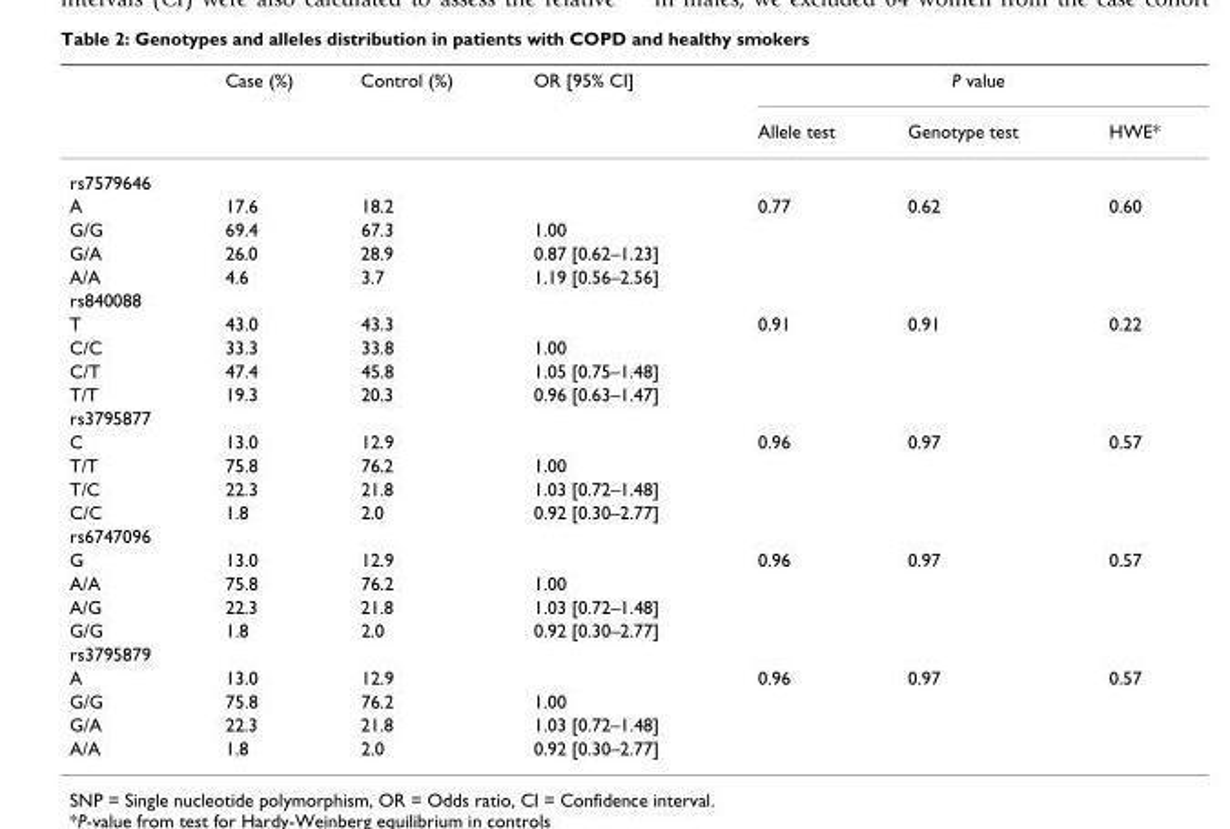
<table><thead><tr><td rowspan="2"></td><td rowspan="2">Case (%)</td><td rowspan="2">Control (%)</td><td rowspan="2">OR [95% CI]</td><td colspan="3">P value</td></tr><tr><td>Allele test</td><td>Genotype test</td><td>HWE*</td></tr></thead><tbody><tr><td colspan="7">rs7579646</td></tr><tr><td>A</td><td>17.6</td><td>18.2</td><td></td><td>0.77</td><td>0.62</td><td>0.60</td></tr><tr><td>G/G</td><td>69.4</td><td>67.3</td><td>1.00</td><td></td><td></td><td></td></tr><tr><td>G/A</td><td>26.0</td><td>28.9</td><td>0.87 [0.62–1.23]</td><td></td><td></td><td></td></tr><tr><td>A/A</td><td>4.6</td><td>3.7</td><td>1.19 [0.56–2.56]</td><td></td><td></td><td></td></tr><tr><td colspan="7">rs840088</td></tr><tr><td>T</td><td>43.0</td><td>43.3</td><td></td><td>0.91</td><td>0.91</td><td>0.22</td></tr><tr><td>C/C</td><td>33.3</td><td>33.8</td><td>1.00</td><td></td><td></td><td></td></tr><tr><td>C/T</td><td>47.4</td><td>45.8</td><td>1.05 [0.75–1.48]</td><td></td><td></td><td></td></tr><tr><td>T/T</td><td>19.3</td><td>20.3</td><td>0.96 [0.63–1.47]</td><td></td><td></td><td></td></tr><tr><td colspan="7">rs3795877</td></tr><tr><td>C</td><td>13.0</td><td>12.9</td><td></td><td>0.96</td><td>0.97</td><td>0.57</td></tr><tr><td>T/T</td><td>75.8</td><td>76.2</td><td>1.00</td><td></td><td></td><td></td></tr><tr><td>T/C</td><td>22.3</td><td>21.8</td><td>1.03 [0.72–1.48]</td><td></td><td></td><td></td></tr><tr><td>C/C</td><td>1.8</td><td>2.0</td><td>0.92 [0.30–2.77]</td><td></td><td></td><td></td></tr><tr><td colspan="7">rs6747096</td></tr><tr><td>G</td><td>13.0</td><td>12.9</td><td></td><td>0.96</td><td>0.97</td><td>0.57</td></tr><tr><td>A/A</td><td>75.8</td><td>76.2</td><td>1.00</td><td></td><td></td><td></td></tr><tr><td>A/G</td><td>22.3</td><td>21.8</td><td>1.03 [0.72–1.48]</td><td></td><td></td><td></td></tr><tr><td>G/G</td><td>1.8</td><td>2.0</td><td>0.92 [0.30–2.77]</td><td></td><td></td><td></td></tr><tr><td colspan="7">rs3795879</td></tr><tr><td>A</td><td>13.0</td><td>12.9</td><td></td><td>0.96</td><td>0.97</td><td>0.57</td></tr><tr><td>G/G</td><td>75.8</td><td>76.2</td><td>1.00</td><td></td><td></td><td></td></tr><tr><td>G/A</td><td>22.3</td><td>21.8</td><td>1.03 [0.72–1.48]</td><td></td><td></td><td></td></tr><tr><td>A/A</td><td>1.8</td><td>2.0</td><td>0.92 [0.30–2.77]</td><td></td><td></td><td></td></tr></tbody></table>